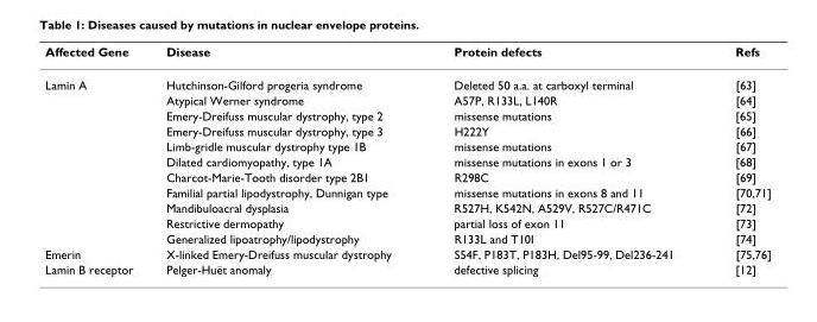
<table><thead><tr><td>Affected Gene</td><td>Disease</td><td>Protein defects</td><td>Refs</td></tr></thead><tbody><tr><td rowspan="11">Lamin A</td><td>Hutchinson-Gilford progeria syndrome</td><td>Deleted 50 a.a. at carboxyl terminal</td><td>[63]</td></tr><tr><td>Atypical Werner syndrome</td><td>A57P, R133L, L140R</td><td>[64]</td></tr><tr><td>Emery-Dreifuss muscular dystrophy, type 2</td><td>missense mutations</td><td>[65]</td></tr><tr><td>Emery-Dreifuss muscular dystrophy, type 3</td><td>H222Y</td><td>[66]</td></tr><tr><td>Limb-gridle muscular dystrophy type 1B</td><td>missense mutations</td><td>[67]</td></tr><tr><td>Dilated cardiomyopathy, type 1A</td><td>missense mutations in exons 1 or 3</td><td>[68]</td></tr><tr><td>Charcot-Marie-Tooth disorder type 2B1</td><td>R298C</td><td>[69]</td></tr><tr><td>Familial partial lipodystrophy, Dunnigan type</td><td>missense mutations in exons 8 and 11</td><td>[70,71]</td></tr><tr><td>Mandibuloacral dysplasia</td><td>R527H, K542N, A529V, R527C/R471C</td><td>[72]</td></tr><tr><td>Restrictive dermopathy</td><td>partial loss of exon 11</td><td>[73]</td></tr><tr><td>Generalized lipoatrophy/lipodystrophy</td><td>R133L and T10I</td><td>[74]</td></tr><tr><td>Emerin</td><td>X-linked Emery-Dreifuss muscular dystrophy</td><td>S54F, P183T, P183H, Del95-99, Del236-241</td><td>[75,76]</td></tr><tr><td>Lamin B receptor</td><td>Pelger-Huët anomaly</td><td>defective splicing</td><td>[12]</td></tr></tbody></table>